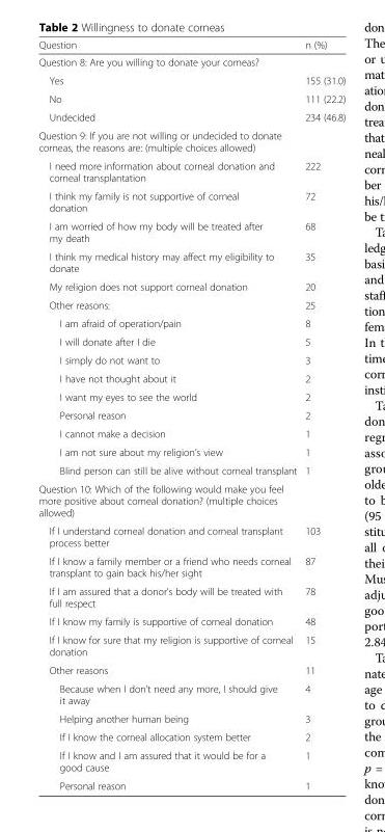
<table><thead><tr><td>Question</td><td>n (%)</td></tr></thead><tbody><tr><td colspan="2">Question 8: Are you willing to donate your corneas?</td></tr><tr><td>Yes</td><td>155 (31.0)</td></tr><tr><td>No</td><td>111 (22.2)</td></tr><tr><td>Undecided</td><td>234 (46.8)</td></tr><tr><td colspan="2">Question 9: If you are not willing or undecided to donate corneas, the reasons are: (multiple choices allowed)</td></tr><tr><td>I need more information about corneal donation and corneal transplantation</td><td>222</td></tr><tr><td>I think my family is not supportive of corneal donation</td><td>72</td></tr><tr><td>I am worried of how my body will be treated after my death</td><td>68</td></tr><tr><td>I think my medical history may affect my eligibility to donate</td><td>35</td></tr><tr><td>My religion does not support corneal donation</td><td>20</td></tr><tr><td>Other reasons:</td><td>25</td></tr><tr><td>I am afraid of operation/pain</td><td>8</td></tr><tr><td>I will donate after I die</td><td>5</td></tr><tr><td>I simply do not want to</td><td>3</td></tr><tr><td>I have not thought about it</td><td>2</td></tr><tr><td>I want my eyes to see the world</td><td>2</td></tr><tr><td>Personal reason</td><td>2</td></tr><tr><td>I cannot make a decision</td><td>1</td></tr><tr><td>I am not sure about my religion’s view</td><td>1</td></tr><tr><td>Blind person can still be alive without corneal transplant</td><td>1</td></tr><tr><td colspan="2">Question 10: Which of the following would make you feel more positive about corneal donation? (multiple choices allowed)</td></tr><tr><td>If I understand corneal donation and corneal transplant process better</td><td>103</td></tr><tr><td>If I know a family member or a friend who needs corneal transplant to gain back his/her sight</td><td>87</td></tr><tr><td>If I am assured that a donor’s body will be treated with full respect</td><td>78</td></tr><tr><td>If I know my family is supportive of corneal donation</td><td>48</td></tr><tr><td>If I know for sure that my religion is supportive of corneal donation</td><td>15</td></tr><tr><td>Other reasons</td><td>11</td></tr><tr><td>Because when I don’t need any more, I should give it away</td><td>4</td></tr><tr><td>Helping another human being</td><td>3</td></tr><tr><td>If I know the corneal allocation system better</td><td>2</td></tr><tr><td>If I know and I am assured that it would be for a good cause</td><td>1</td></tr><tr><td>Personal reason</td><td>1</td></tr></tbody></table>